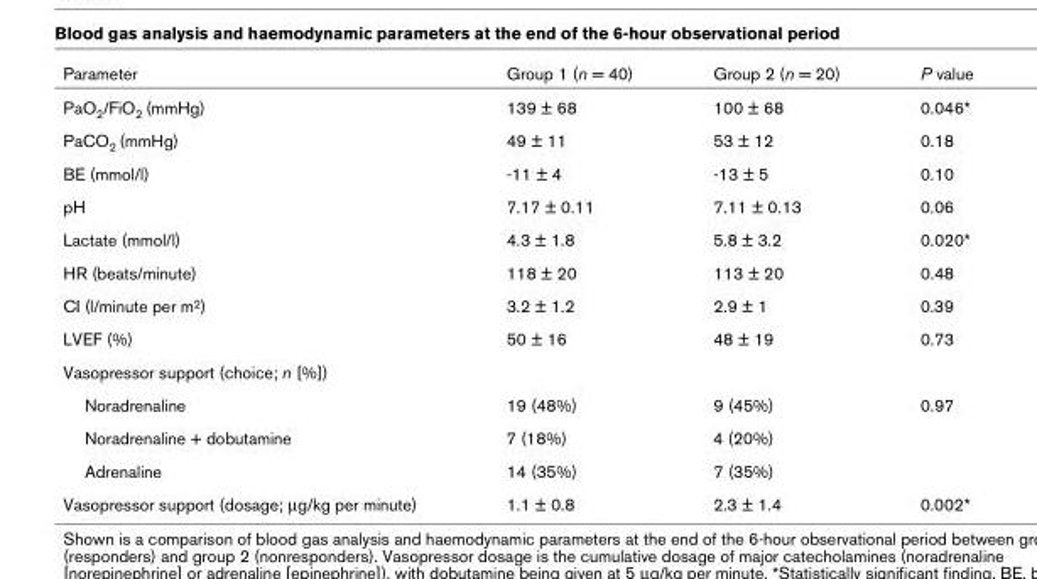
<table><thead><tr><td>Parameter</td><td>Group 1 (n = 40)</td><td>Group 2 (n = 20)</td><td>P value</td></tr></thead><tbody><tr><td>PaO2/FiO2 (mmHg)</td><td>139 ± 68</td><td>100 ± 68</td><td>0.046*</td></tr><tr><td>PaCO2 (mmHg)</td><td>49 ± 11</td><td>53 ± 12</td><td>0.18</td></tr><tr><td>BE (mmol/l)</td><td>-11 ± 4</td><td>-13 ± 5</td><td>0.10</td></tr><tr><td>pH</td><td>7.17 ± 0.11</td><td>7.11 ± 0.13</td><td>0.06</td></tr><tr><td>Lactate (mmol/l)</td><td>4.3 ± 1.8</td><td>5.8 ± 3.2</td><td>0.020*</td></tr><tr><td>HR (beats/minute)</td><td>118 ± 20</td><td>113 ± 20</td><td>0.48</td></tr><tr><td>CI (l/minute per m2)</td><td>3.2 ± 1.2</td><td>2.9 ± 1</td><td>0.39</td></tr><tr><td>LVEF (%)</td><td>50 ± 16</td><td>48 ± 19</td><td>0.73</td></tr><tr><td colspan="4">Vasopressor support (choice; n [%])</td></tr><tr><td>Noradrenaline</td><td>19 (48%)</td><td>9 (45%)</td><td>0.97</td></tr><tr><td>Noradrenaline + dobutamine</td><td>7 (18%)</td><td>4 (20%)</td><td></td></tr><tr><td>Adrenaline</td><td>14 (35%)</td><td>7 (35%)</td><td></td></tr><tr><td>Vasopressor support (dosage; µg/kg per minute)</td><td>1.1 ± 0.8</td><td>2.3 ± 1.4</td><td>0.002*</td></tr></tbody></table>